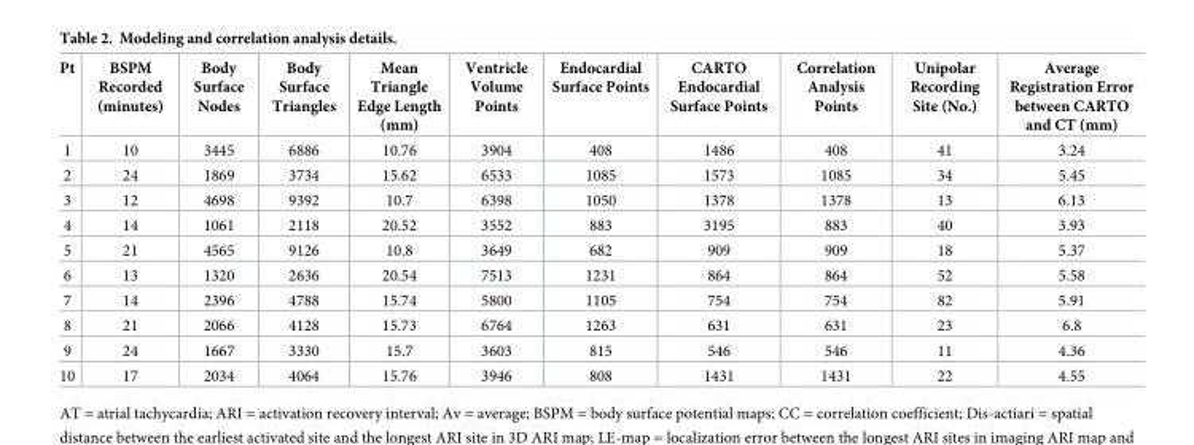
<table><thead><tr><td>Pt</td><td>BSPM Recorded (minutes)</td><td>Body Surface Nodes</td><td>Body Surface Triangles</td><td>Mean Triangle Edge Length (mm)</td><td>Ventricle Volume Points</td><td>Endocardial Surface Points</td><td>CARTO Endocardial Surface Points</td><td>Correlation Analysis Points</td><td>Unipolar Recording Site (No.)</td><td>Average Registration Error between CARTO and CT (mm)</td></tr></thead><tbody><tr><td>1</td><td>10</td><td>3445</td><td>6886</td><td>10.76</td><td>3904</td><td>408</td><td>1486</td><td>408</td><td>41</td><td>3.24</td></tr><tr><td>2</td><td>24</td><td>1869</td><td>3734</td><td>15.62</td><td>6533</td><td>1085</td><td>1573</td><td>1085</td><td>34</td><td>5.45</td></tr><tr><td>3</td><td>12</td><td>4698</td><td>9392</td><td>10.7</td><td>6398</td><td>1050</td><td>1378</td><td>1378</td><td>13</td><td>6.13</td></tr><tr><td>4</td><td>14</td><td>1061</td><td>2118</td><td>20.52</td><td>3552</td><td>883</td><td>3195</td><td>883</td><td>40</td><td>3.93</td></tr><tr><td>5</td><td>21</td><td>4565</td><td>9126</td><td>10.8</td><td>3649</td><td>682</td><td>909</td><td>909</td><td>18</td><td>5.37</td></tr><tr><td>6</td><td>13</td><td>1320</td><td>2636</td><td>20.54</td><td>7513</td><td>1231</td><td>864</td><td>864</td><td>52</td><td>5.58</td></tr><tr><td>7</td><td>14</td><td>2396</td><td>4788</td><td>15.74</td><td>5800</td><td>1105</td><td>754</td><td>754</td><td>82</td><td>5.91</td></tr><tr><td>8</td><td>21</td><td>2066</td><td>4128</td><td>15.73</td><td>6764</td><td>1263</td><td>631</td><td>631</td><td>23</td><td>6.8</td></tr><tr><td>9</td><td>24</td><td>1667</td><td>3330</td><td>15.7</td><td>3603</td><td>815</td><td>546</td><td>546</td><td>11</td><td>4.36</td></tr><tr><td>10</td><td>17</td><td>2034</td><td>4064</td><td>15.76</td><td>3946</td><td>808</td><td>1431</td><td>1431</td><td>22</td><td>4.55</td></tr></tbody></table>